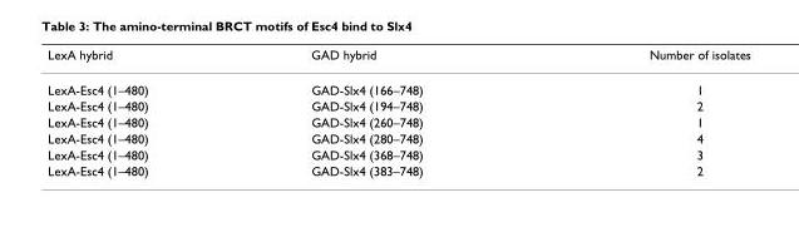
<table><thead><tr><td>LexA hybrid</td><td>GAD hybrid</td><td>Number of isolates</td></tr></thead><tbody><tr><td>LexA-Esc4 (1–480)</td><td>GAD-Slx4 (166–748)</td><td>1</td></tr><tr><td>LexA-Esc4 (1–480)</td><td>GAD-Slx4 (194–748)</td><td>2</td></tr><tr><td>LexA-Esc4 (1–480)</td><td>GAD-Slx4 (260–748)</td><td>1</td></tr><tr><td>LexA-Esc4 (1–480)</td><td>GAD-Slx4 (280–748)</td><td>4</td></tr><tr><td>LexA-Esc4 (1–480)</td><td>GAD-Slx4 (368–748)</td><td>3</td></tr><tr><td>LexA-Esc4 (1–480)</td><td>GAD-Slx4 (383–748)</td><td>2</td></tr></tbody></table>